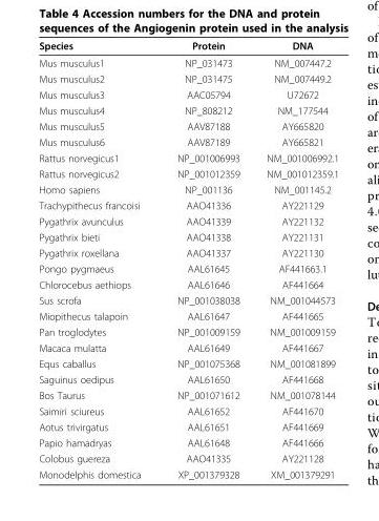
<table><thead><tr><td>Species</td><td>Protein</td><td>DNA</td></tr></thead><tbody><tr><td>Mus musculus1</td><td>NP_031473</td><td>NM_007447.2</td></tr><tr><td>Mus musculus2</td><td>NP_031475</td><td>NM_007449.2</td></tr><tr><td>Mus musculus3</td><td>AAC05794</td><td>U72672</td></tr><tr><td>Mus musculus4</td><td>NP_808212</td><td>NM_177544</td></tr><tr><td>Mus musculus5</td><td>AAV87188</td><td>AY665820</td></tr><tr><td>Mus musculus6</td><td>AAV87189</td><td>AY665821</td></tr><tr><td>Rattus norvegicus1</td><td>NP_001006993</td><td>NM_001006992.1</td></tr><tr><td>Rattus norvegicus2</td><td>NP_001012359</td><td>NM_001012359.1</td></tr><tr><td>Homo sapiens</td><td>NP_001136</td><td>NM_001145.2</td></tr><tr><td>Trachypithecus francoisi</td><td>AAO41336</td><td>AY221129</td></tr><tr><td>Pygathrix avunculus</td><td>AAO41339</td><td>AY221132</td></tr><tr><td>Pygathrix bieti</td><td>AAO41338</td><td>AY221131</td></tr><tr><td>Pygathrix roxellana</td><td>AAO41337</td><td>AY221130</td></tr><tr><td>Pongo pygmaeus</td><td>AAL61645</td><td>AF441663.1</td></tr><tr><td>Chlorocebus aethiops</td><td>AAL61646</td><td>AF441664</td></tr><tr><td>Sus scrofa</td><td>NP_001038038</td><td>NM_001044573</td></tr><tr><td>Miopithecus talapoin</td><td>AAL61647</td><td>AF441665</td></tr><tr><td>Pan troglodytes</td><td>NP_001009159</td><td>NM_001009159</td></tr><tr><td>Macaca mulatta</td><td>AAL61649</td><td>AF441667</td></tr><tr><td>Equs caballus</td><td>NP_001075368</td><td>NM_001081899</td></tr><tr><td>Saguinus oedipus</td><td>AAL61650</td><td>AF441668</td></tr><tr><td>Bos Taurus</td><td>NP_001071612</td><td>NM_001078144</td></tr><tr><td>Saimiri sciureus</td><td>AAL61652</td><td>AF441670</td></tr><tr><td>Aotus trivirgatus</td><td>AAL61651</td><td>AF441669</td></tr><tr><td>Papio hamadryas</td><td>AAL61648</td><td>AF441666</td></tr><tr><td>Colobus guereza</td><td>AAO41335</td><td>AY221128</td></tr><tr><td>Monodelphis domestica</td><td>XP_001379328</td><td>XM_001379291</td></tr></tbody></table>